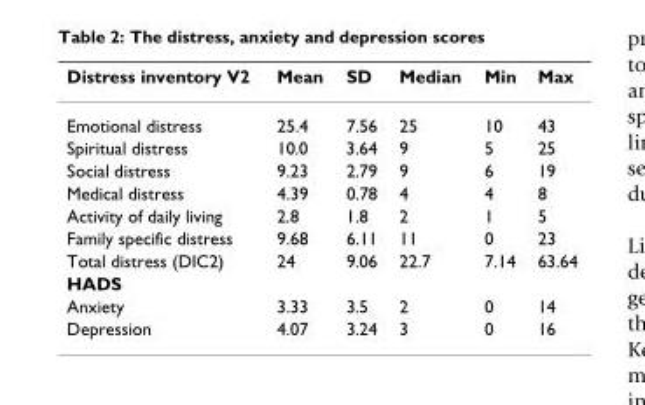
<table><thead><tr><td>Distress inventory V2</td><td>Mean</td><td>SD</td><td>Median</td><td>Min</td><td>Max</td></tr></thead><tbody><tr><td>Emotional distress</td><td>25.4</td><td>7.56</td><td>25</td><td>10</td><td>43</td></tr><tr><td>Spiritual distress</td><td>10.0</td><td>3.64</td><td>9</td><td>5</td><td>25</td></tr><tr><td>Social distress</td><td>9.23</td><td>2.79</td><td>9</td><td>6</td><td>19</td></tr><tr><td>Medical distress</td><td>4.39</td><td>0.78</td><td>4</td><td>4</td><td>8</td></tr><tr><td>Activity of daily living</td><td>2.8</td><td>1.8</td><td>2</td><td>1</td><td>5</td></tr><tr><td>Family specific distress</td><td>9.68</td><td>6.11</td><td>11</td><td>0</td><td>23</td></tr><tr><td>Total distress (DIC2)</td><td>24</td><td>9.06</td><td>22.7</td><td>7.14</td><td>63.64</td></tr><tr><td colspan="6">HADS</td></tr><tr><td>Anxiety</td><td>3.33</td><td>3.5</td><td>2</td><td>0</td><td>14</td></tr><tr><td>Depression</td><td>4.07</td><td>3.24</td><td>3</td><td>0</td><td>16</td></tr></tbody></table>